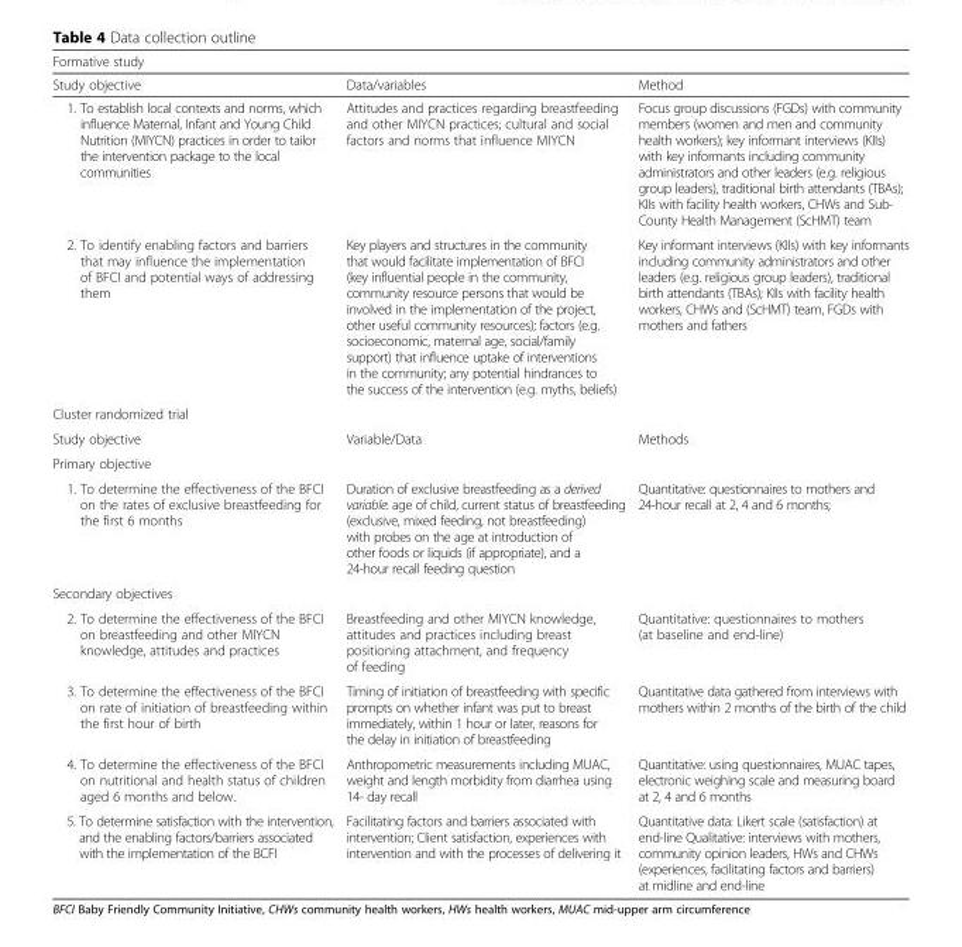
<table><thead><tr><td colspan="3">Formative study</td></tr><tr><td>Study objective</td><td>Data/variables</td><td>Method</td></tr></thead><tbody><tr><td>1. To establish local contexts and norms, which influence Maternal, Infant and Young Child Nutrition (MIYCN) practices in order to tailor the intervention package to the local communities</td><td>Attitudes and practices regarding breastfeeding and other MIYCN practices; cultural and social factors and norms that influence MIYCN</td><td>Focus group discussions (FGDs) with community members (women and men and community health workers); key informant interviews (KIIs) with key informants including community administrators and other leaders (e.g. religious group leaders), traditional birth attendants (TBAs); KIIs with facility health workers, CHWs and Sub- County Health Management (ScHMT) team</td></tr><tr><td>2. To identify enabling factors and barriers that may influence the implementation of BFCI and potential ways of addressing them</td><td>Key players and structures in the community that would facilitate implementation of BFCI (key influential people in the community, community resource persons that would be involved in the implementation of the project, other useful community resources); factors (e.g. socioeconomic, maternal age, social/family support) that influence uptake of interventions in the community; any potential hindrances to the success of the intervention (e.g. myths, beliefs)</td><td>Key informant interviews (KIIs) with key informants including community administrators and other leaders (e.g. religious group leaders), traditional birth attendants (TBAs); KIIs with facility health workers, CHWs and (ScHMT) team, FGDs with mothers and fathers</td></tr><tr><td colspan="3">Cluster randomized trial</td></tr><tr><td>Study objective</td><td>Variable/Data</td><td>Methods</td></tr><tr><td colspan="3">Primary objective</td></tr><tr><td>1. To determine the effectiveness of the BFCI on the rates of exclusive breastfeeding for the first 6 months</td><td>Duration of exclusive breastfeeding as a derived variable: age of child, current status of breastfeeding (exclusive, mixed feeding, not breastfeeding) with probes on the age at introduction of other foods or liquids (if appropriate), and a 24-hour recall feeding question</td><td>Quantitative: questionnaires to mothers and 24-hour recall at 2, 4 and 6 months;</td></tr><tr><td colspan="3">Secondary objectives</td></tr><tr><td>2. To determine the effectiveness of the BFCI on breastfeeding and other MIYCN knowledge, attitudes and practices</td><td>Breastfeeding and other MIYCN knowledge, attitudes and practices including breast positioning attachment, and frequency of feeding</td><td>Quantitative: questionnaires to mothers (at baseline and end-line)</td></tr><tr><td>3. To determine the effectiveness of the BFCI on rate of initiation of breastfeeding within the first hour of birth</td><td>Timing of initiation of breastfeeding with specific prompts on whether infant was put to breast immediately, within 1 hour or later, reasons for the delay in initiation of breastfeeding</td><td>Quantitative data gathered from interviews with mothers within 2 months of the birth of the child</td></tr><tr><td>4. To determine the effectiveness of the BFCI on nutritional and health status of children aged 6 months and below.</td><td>Anthropometric measurements including MUAC, weight and length morbidity from diarrhea using 14- day recall</td><td>Quantitative: using questionnaires, MUAC tapes, electronic weighing scale and measuring board at 2, 4 and 6 months</td></tr><tr><td>5. To determine satisfaction with the intervention, and the enabling factors/barriers associated with the implementation of the BCFI</td><td>Facilitating factors and barriers associated with intervention; Client satisfaction, experiences with intervention and with the processes of delivering it</td><td>Quantitative data: Likert scale (satisfaction) at end-line Qualitative: interviews with mothers, community opinion leaders, HWs and CHWs (experiences, facilitating factors and barriers) at midline and end-line</td></tr></tbody></table>